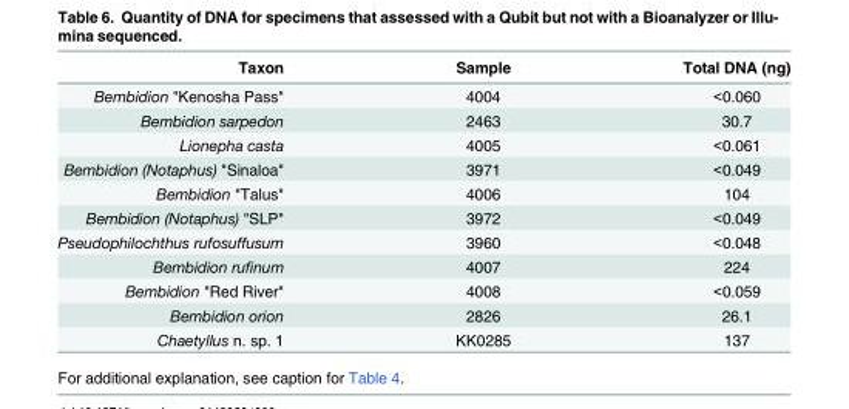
<table><thead><tr><td>Taxon</td><td>Sample</td><td>Total DNA (ng)</td></tr></thead><tbody><tr><td>Bembidion &quot;Kenosha Pass&quot;</td><td>4004</td><td>&lt;0.060</td></tr><tr><td>Bembidion sarpedon</td><td>2463</td><td>30.7</td></tr><tr><td>Lionepha casta</td><td>4005</td><td>&lt;0.061</td></tr><tr><td>Bembidion (Notaphus) &quot;Sinaloa&quot;</td><td>3971</td><td>&lt;0.049</td></tr><tr><td>Bembidion &quot;Talus&quot;</td><td>4006</td><td>104</td></tr><tr><td>Bembidion (Notaphus) &quot;SLP&quot;</td><td>3972</td><td>&lt;0.049</td></tr><tr><td>Pseudophilochthus rufosuffusum</td><td>3960</td><td>&lt;0.048</td></tr><tr><td>Bembidion rufinum</td><td>4007</td><td>224</td></tr><tr><td>Bembidion &quot;Red River&quot;</td><td>4008</td><td>&lt;0.059</td></tr><tr><td>Bembidion orion</td><td>2826</td><td>26.1</td></tr><tr><td>Chaetyllus n. sp. 1</td><td>KK0285</td><td>137</td></tr></tbody></table>